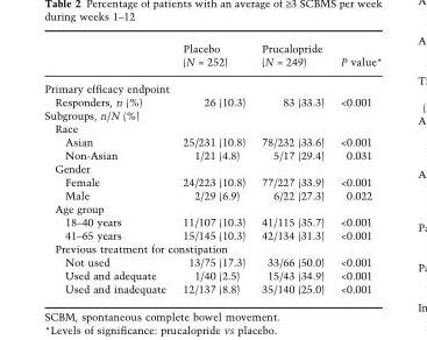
<table><thead><tr><td></td><td>Placebo (N = 252)</td><td>Prucalopride (N = 249)</td><td>P value*</td></tr></thead><tbody><tr><td colspan="4">Primary efficacy endpoint</td></tr><tr><td>Responders, n (%)</td><td>26 (10.3)</td><td>83 (33.3)</td><td>&lt;0.001</td></tr><tr><td colspan="4">Subgroups, n/N (%)</td></tr><tr><td colspan="4">Race</td></tr><tr><td>Asian</td><td>25/231 (10.8)</td><td>78/232 (33.6)</td><td>&lt;0.001</td></tr><tr><td>Non-Asian</td><td>1/21 (4.8)</td><td>5/17 (29.4)</td><td>0.031</td></tr><tr><td colspan="4">Gender</td></tr><tr><td>Female</td><td>24/223 (10.8)</td><td>77/227 (33.9)</td><td>&lt;0.001</td></tr><tr><td>Male</td><td>2/29 (6.9)</td><td>6/22 (27.3)</td><td>0.022</td></tr><tr><td colspan="4">Age group</td></tr><tr><td>18–40 years</td><td>11/107 (10.3)</td><td>41/115 (35.7)</td><td>&lt;0.001</td></tr><tr><td>41–65 years</td><td>15/145 (10.3)</td><td>42/134 (31.3)</td><td>&lt;0.001</td></tr><tr><td colspan="4">Previous treatment for constipation</td></tr><tr><td>Not used</td><td>13/75 (17.3)</td><td>33/66 (50.0)</td><td>&lt;0.001</td></tr><tr><td>Used and adequate</td><td>1/40 (2.5)</td><td>15/43 (34.9)</td><td>&lt;0.001</td></tr><tr><td>Used and inadequate</td><td>12/137 (8.8)</td><td>35/140 (25.0)</td><td>&lt;0.001</td></tr></tbody></table>